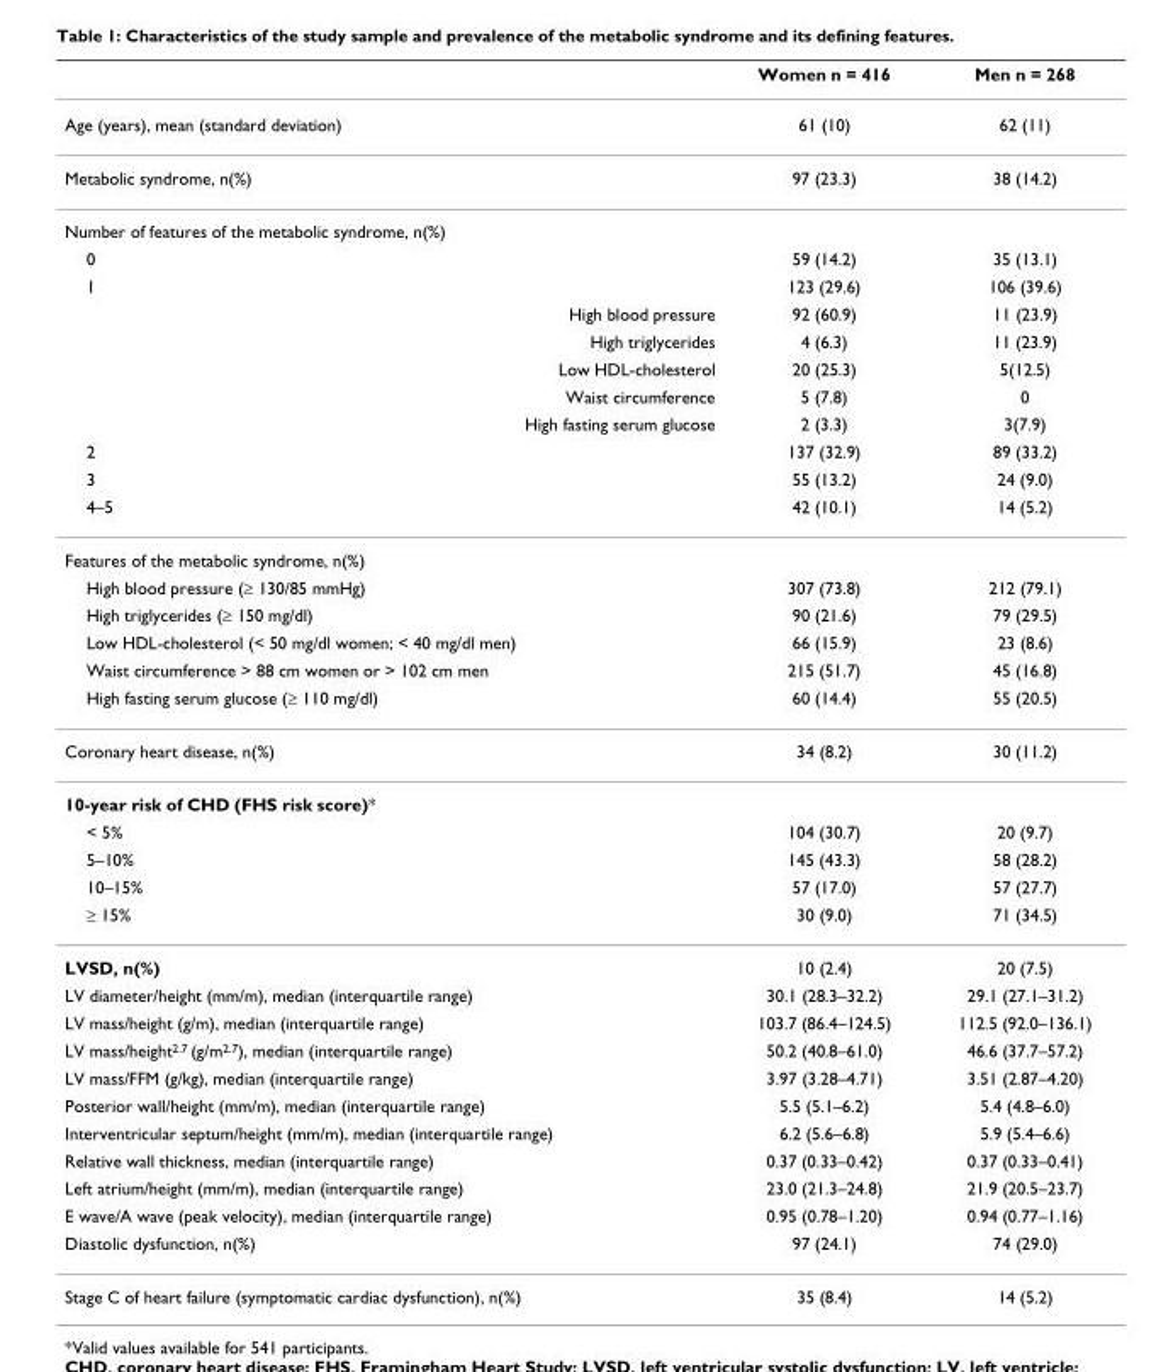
<table><thead><tr><td></td><td>Women n = 416</td><td>Men n = 268</td></tr></thead><tbody><tr><td>Age (years), mean (standard deviation)</td><td>61 (10)</td><td>62 (11)</td></tr><tr><td>Metabolic syndrome, n(%)</td><td>97 (23.3)</td><td>38 (14.2)</td></tr><tr><td colspan="3">Number of features of the metabolic syndrome, n(%)</td></tr><tr><td>0</td><td>59 (14.2)</td><td>35 (13.1)</td></tr><tr><td>1</td><td>123 (29.6)</td><td>106 (39.6)</td></tr><tr><td>High blood pressure</td><td>92 (60.9)</td><td>11 (23.9)</td></tr><tr><td>High triglycerides</td><td>4 (6.3)</td><td>11 (23.9)</td></tr><tr><td>Low HDL-cholesterol</td><td>20 (25.3)</td><td>5(12.5)</td></tr><tr><td>Waist circumference</td><td>5 (7.8)</td><td>0</td></tr><tr><td>High fasting serum glucose</td><td>2 (3.3)</td><td>3(7.9)</td></tr><tr><td>2</td><td>137 (32.9)</td><td>89 (33.2)</td></tr><tr><td>3</td><td>55 (13.2)</td><td>24 (9.0)</td></tr><tr><td>4–5</td><td>42 (10.1)</td><td>14 (5.2)</td></tr><tr><td colspan="3">Features of the metabolic syndrome, n(%)</td></tr><tr><td>High blood pressure (≥ 130/85 mmHg)</td><td>307 (73.8)</td><td>212 (79.1)</td></tr><tr><td>High triglycerides (≥ 150 mg/dl)</td><td>90 (21.6)</td><td>79 (29.5)</td></tr><tr><td>Low HDL-cholesterol (&lt; 50 mg/dl women; &lt; 40 mg/dl men)</td><td>66 (15.9)</td><td>23 (8.6)</td></tr><tr><td>Waist circumference &gt; 88 cm women or &gt; 102 cm men</td><td>215 (51.7)</td><td>45 (16.8)</td></tr><tr><td>High fasting serum glucose (≥ 110 mg/dl)</td><td>60 (14.4)</td><td>55 (20.5)</td></tr><tr><td>Coronary heart disease, n(%)</td><td>34 (8.2)</td><td>30 (11.2)</td></tr><tr><td colspan="3">10-year risk of CHD (FHS risk score)*</td></tr><tr><td>&lt; 5%</td><td>104 (30.7)</td><td>20 (9.7)</td></tr><tr><td>5–10%</td><td>145 (43.3)</td><td>58 (28.2)</td></tr><tr><td>10–15%</td><td>57 (17.0)</td><td>57 (27.7)</td></tr><tr><td>≥ 15%</td><td>30 (9.0)</td><td>71 (34.5)</td></tr><tr><td>LVSD, n(%)</td><td>10 (2.4)</td><td>20 (7.5)</td></tr><tr><td>LV diameter/height (mm/m), median (interquartile range)</td><td>30.1 (28.3–32.2)</td><td>29.1 (27.1–31.2)</td></tr><tr><td>LV mass/height (g/m), median (interquartile range)</td><td>103.7 (86.4–124.5)</td><td>112.5 (92.0–136.1)</td></tr><tr><td>LV mass/height2.7 (g/m2.7), median (interquartile range)</td><td>50.2 (40.8–61.0)</td><td>46.6 (37.7–57.2)</td></tr><tr><td>LV mass/FFM (g/kg), median (interquartile range)</td><td>3.97 (3.28–4.71)</td><td>3.51 (2.87–4.20)</td></tr><tr><td>Posterior wall/height (mm/m), median (interquartile range)</td><td>5.5 (5.1–6.2)</td><td>5.4 (4.8–6.0)</td></tr><tr><td>Interventricular septum/height (mm/m), median (interquartile range)</td><td>6.2 (5.6–6.8)</td><td>5.9 (5.4–6.6)</td></tr><tr><td>Relative wall thickness, median (interquartile range)</td><td>0.37 (0.33–0.42)</td><td>0.37 (0.33–0.41)</td></tr><tr><td>Left atrium/height (mm/m), median (interquartile range)</td><td>23.0 (21.3–24.8)</td><td>21.9 (20.5–23.7)</td></tr><tr><td>E wave/A wave (peak velocity), median (interquartile range)</td><td>0.95 (0.78–1.20)</td><td>0.94 (0.77–1.16)</td></tr><tr><td>Diastolic dysfunction, n(%)</td><td>97 (24.1)</td><td>74 (29.0)</td></tr><tr><td>Stage C of heart failure (symptomatic cardiac dysfunction), n(%)</td><td>35 (8.4)</td><td>14 (5.2)</td></tr></tbody></table>